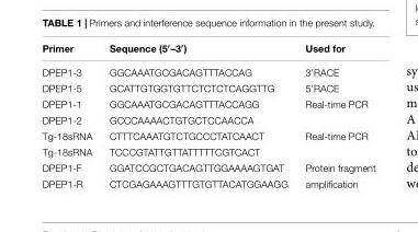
<table><thead><tr><td>Primer</td><td>Sequence (5′–3′)</td><td>Used for</td></tr></thead><tbody><tr><td>DPEP1-3</td><td>GGCAAATGCGACAGTTTACCAG</td><td>3′RACE</td></tr><tr><td>DPEP1-5</td><td>GCATTGTGGTGTTCTCTCTCAGGTTG</td><td>5′RACE</td></tr><tr><td>DPEP1-1</td><td>GGCAAATGCGACAGTTTACCAGG</td><td>Real-time PCR</td></tr><tr><td>DPEP1-2</td><td>GCCCAAAACTGTGCTCCAACCA</td><td></td></tr><tr><td>Tg-18sRNA</td><td>CTTTCAAATGTCTGCCCTATCAACT</td><td>Real-time PCR</td></tr><tr><td>Tg-18sRNA</td><td>TCCCGTATTGTTATTTTTCGTCACT</td><td></td></tr><tr><td>DPEP1-F</td><td>GGATCCGCTGACAGTTGGAAAAGTGAT</td><td>Protein fragment</td></tr><tr><td>DPEP1-R</td><td>CTCGAGAAAGTTTGTGTTACATGGAAGG</td><td>amplification</td></tr></tbody></table>